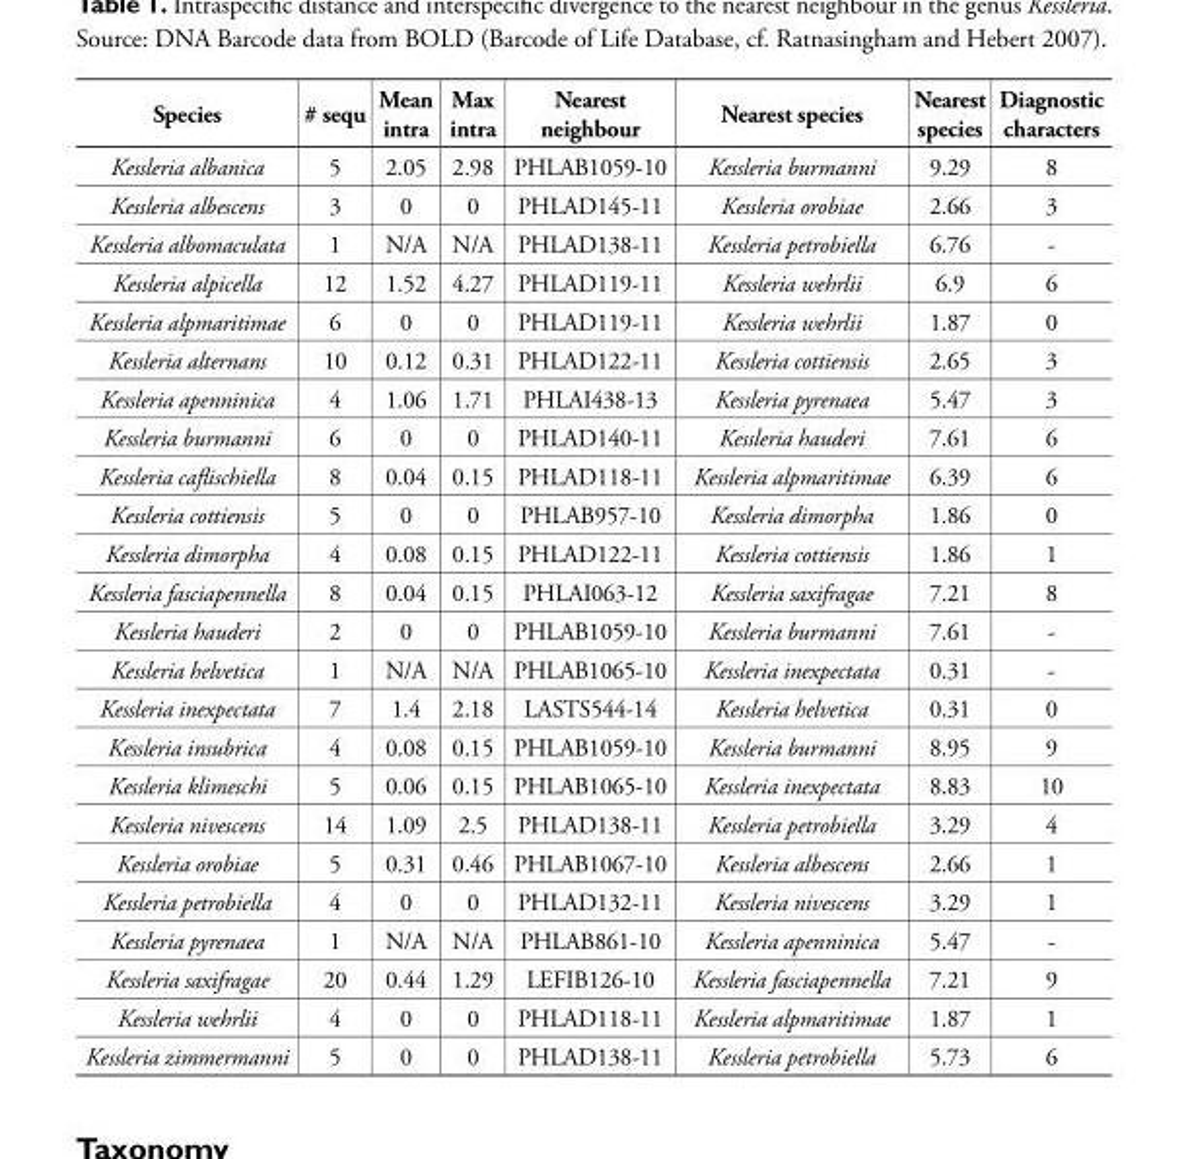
<table><thead><tr><td>Species</td><td># sequ</td><td>Mean intra</td><td>Max intra</td><td>Nearest neighbour</td><td>Nearest species</td><td>Nearest species</td><td>Diagnostic characters</td></tr></thead><tbody><tr><td>Kessleria albanica</td><td>5</td><td>2.05</td><td>2.98</td><td>PHLAB1059-10</td><td>Kessleria burmanni</td><td>9.29</td><td>8</td></tr><tr><td>Kessleria albescens</td><td>3</td><td>0</td><td>0</td><td>PHLAD145-11</td><td>Kessleria orobiae</td><td>2.66</td><td>3</td></tr><tr><td>Kessleria albomaculata</td><td>1</td><td>N/A</td><td>N/A</td><td>PHLAD138-11</td><td>Kessleria petrobiella</td><td>6.76</td><td>-</td></tr><tr><td>Kessleria alpicella</td><td>12</td><td>1.52</td><td>4.27</td><td>PHLAD119-11</td><td>Kessleria wehrlii</td><td>6.9</td><td>6</td></tr><tr><td>Kessleria alpmaritimae</td><td>6</td><td>0</td><td>0</td><td>PHLAD119-11</td><td>Kessleria wehrlii</td><td>1.87</td><td>0</td></tr><tr><td>Kessleria alternans</td><td>10</td><td>0.12</td><td>0.31</td><td>PHLAD122-11</td><td>Kessleria cottiensis</td><td>2.65</td><td>3</td></tr><tr><td>Kessleria apenninica</td><td>4</td><td>1.06</td><td>1.71</td><td>PHLAI438-13</td><td>Kessleria pyrenaea</td><td>5.47</td><td>3</td></tr><tr><td>Kessleria burmanni</td><td>6</td><td>0</td><td>0</td><td>PHLAD140-11</td><td>Kessleria hauderi</td><td>7.61</td><td>6</td></tr><tr><td>Kessleria caflischiella</td><td>8</td><td>0.04</td><td>0.15</td><td>PHLAD118-11</td><td>Kessleria alpmaritimae</td><td>6.39</td><td>6</td></tr><tr><td>Kessleria cottiensis</td><td>5</td><td>0</td><td>0</td><td>PHLAB957-10</td><td>Kessleria dimorpha</td><td>1.86</td><td>0</td></tr><tr><td>Kessleria dimorpha</td><td>4</td><td>0.08</td><td>0.15</td><td>PHLAD122-11</td><td>Kessleria cottiensis</td><td>1.86</td><td>1</td></tr><tr><td>Kessleria fasciapennella</td><td>8</td><td>0.04</td><td>0.15</td><td>PHLAI063-12</td><td>Kessleria saxifragae</td><td>7.21</td><td>8</td></tr><tr><td>Kessleria hauderi</td><td>2</td><td>0</td><td>0</td><td>PHLAB1059-10</td><td>Kessleria burmanni</td><td>7.61</td><td>-</td></tr><tr><td>Kessleria helvetica</td><td>1</td><td>N/A</td><td>N/A</td><td>PHLAB1065-10</td><td>Kessleria inexpectata</td><td>0.31</td><td>-</td></tr><tr><td>Kessleria inexpectata</td><td>7</td><td>1.4</td><td>2.18</td><td>LASTS544-14</td><td>Kessleria helvetica</td><td>0.31</td><td>0</td></tr><tr><td>Kessleria insubrica</td><td>4</td><td>0.08</td><td>0.15</td><td>PHLAB1059-10</td><td>Kessleria burmanni</td><td>8.95</td><td>9</td></tr><tr><td>Kessleria klimeschi</td><td>5</td><td>0.06</td><td>0.15</td><td>PHLAB1065-10</td><td>Kessleria inexpectata</td><td>8.83</td><td>10</td></tr><tr><td>Kessleria nivescens</td><td>14</td><td>1.09</td><td>2.5</td><td>PHLAD138-11</td><td>Kessleria petrobiella</td><td>3.29</td><td>4</td></tr><tr><td>Kessleria orobiae</td><td>5</td><td>0.31</td><td>0.46</td><td>PHLAB1067-10</td><td>Kessleria albescens</td><td>2.66</td><td>1</td></tr><tr><td>Kessleria petrobiella</td><td>4</td><td>0</td><td>0</td><td>PHLAD132-11</td><td>Kessleria nivescens</td><td>3.29</td><td>1</td></tr><tr><td>Kessleria pyrenaea</td><td>1</td><td>N/A</td><td>N/A</td><td>PHLAB861-10</td><td>Kessleria apenninica</td><td>5.47</td><td>-</td></tr><tr><td>Kessleria saxifragae</td><td>20</td><td>0.44</td><td>1.29</td><td>LEFIB126-10</td><td>Kessleria fasciapennella</td><td>7.21</td><td>9</td></tr><tr><td>Kessleria wehrlii</td><td>4</td><td>0</td><td>0</td><td>PHLAD118-11</td><td>Kessleria alpmaritimae</td><td>1.87</td><td>1</td></tr><tr><td>Kessleria zimmermanni</td><td>5</td><td>0</td><td>0</td><td>PHLAD138-11</td><td>Kessleria petrobiella</td><td>5.73</td><td>6</td></tr></tbody></table>